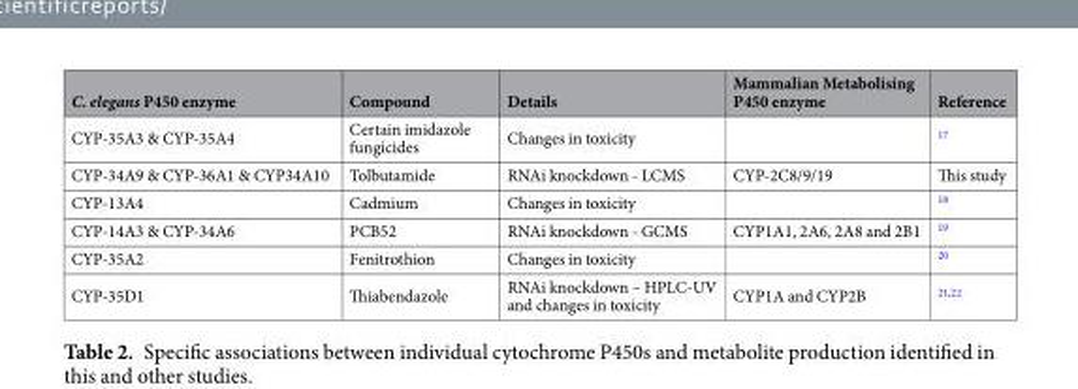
<table><thead><tr><td>C. elegans P450 enzyme</td><td>Compound</td><td>Details</td><td>Mammalian Metabolising P450 enzyme</td><td>Reference</td></tr></thead><tbody><tr><td>CYP-35A3 &amp; CYP-35A4</td><td>Certain imidazole fungicides</td><td>Changes in toxicity</td><td></td><td><sup>17</sup></td></tr><tr><td>CYP-34A9 &amp; CYP-36A1 &amp; CYP34A10</td><td>Tolbutamide</td><td>RNAi knockdown - LCMS</td><td>CYP-2C8/9/19</td><td>This study</td></tr><tr><td>CYP-13A4</td><td>Cadmium</td><td>Changes in toxicity</td><td></td><td><sup>18</sup></td></tr><tr><td>CYP-14A3 &amp; CYP-34A6</td><td>PCB52</td><td>RNAi knockdown - GCMS</td><td>CYP1A1, 2A6, 2A8 and 2B1</td><td><sup>19</sup></td></tr><tr><td>CYP-35A2</td><td>Fenitrothion</td><td>Changes in toxicity</td><td></td><td><sup>20</sup></td></tr><tr><td>CYP-35D1</td><td>Thiabendazole</td><td>RNAi knockdown – HPLC-UV and changes in toxicity</td><td>CYP1A and CYP2B</td><td><sup>21,22</sup></td></tr></tbody></table>